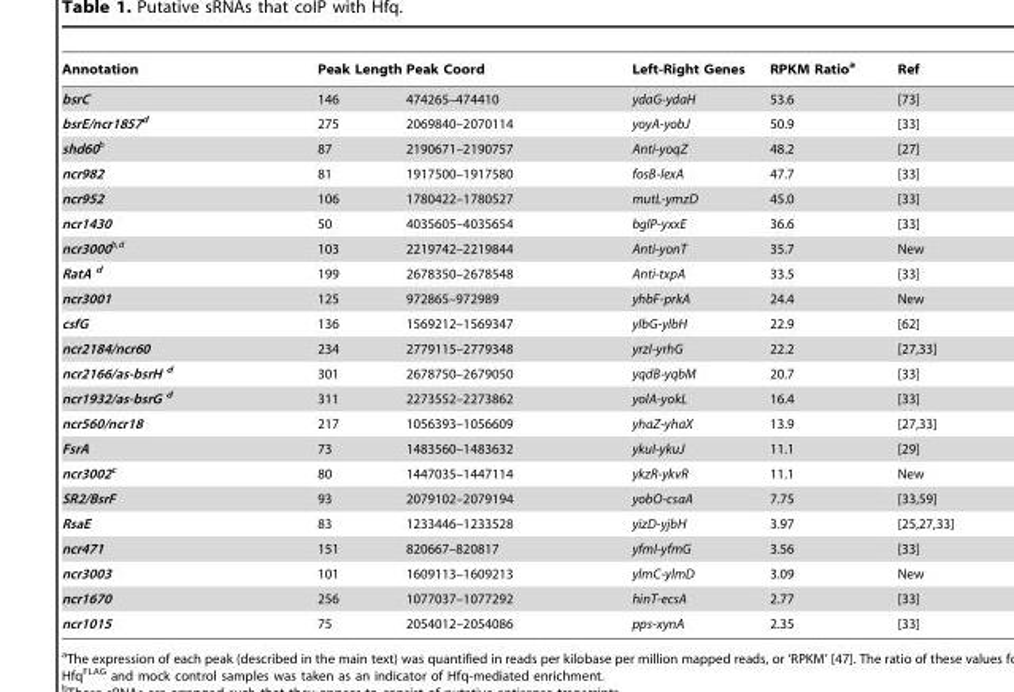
<table><thead><tr><td>Annotation</td><td>Peak Length</td><td>Peak Coord</td><td>Left-Right Genes</td><td>RPKM Ratio<sup>a</sup></td><td>Ref</td></tr></thead><tbody><tr><td>bsrC</td><td>146</td><td>474265–474410</td><td>ydaG-ydaH</td><td>53.6</td><td>[73]</td></tr><tr><td>bsrE/ncr1857d</td><td>275</td><td>2069840–2070114</td><td>yoyA-yobJ</td><td>50.9</td><td>[33]</td></tr><tr><td>shd60b</td><td>87</td><td>2190671–2190757</td><td>Anti-yoqZ</td><td>48.2</td><td>[27]</td></tr><tr><td>ncr982</td><td>81</td><td>1917500–1917580</td><td>fosB-lexA</td><td>47.7</td><td>[33]</td></tr><tr><td>ncr952</td><td>106</td><td>1780422–1780527</td><td>mutL-ymzD</td><td>45.0</td><td>[33]</td></tr><tr><td>ncr1430</td><td>50</td><td>4035605–4035654</td><td>bglP-yxxE</td><td>36.6</td><td>[33]</td></tr><tr><td>ncr3000b,d</td><td>103</td><td>2219742–2219844</td><td>Anti-yonT</td><td>35.7</td><td>New</td></tr><tr><td>RatA d</td><td>199</td><td>2678350–2678548</td><td>Anti-txpA</td><td>33.5</td><td>[33]</td></tr><tr><td>ncr3001</td><td>125</td><td>972865–972989</td><td>yhbF-prkA</td><td>24.4</td><td>New</td></tr><tr><td>csfG</td><td>136</td><td>1569212–1569347</td><td>ylbG-ylbH</td><td>22.9</td><td>[62]</td></tr><tr><td>ncr2184/ncr60</td><td>234</td><td>2779115–2779348</td><td>yrzI-yrhG</td><td>22.2</td><td>[27,33]</td></tr><tr><td>ncr2166/as-bsrH d</td><td>301</td><td>2678750–2679050</td><td>yqdB-yqbM</td><td>20.7</td><td>[33]</td></tr><tr><td>ncr1932/as-bsrG d</td><td>311</td><td>2273552–2273862</td><td>yolA-yokL</td><td>16.4</td><td>[33]</td></tr><tr><td>ncr560/ncr18</td><td>217</td><td>1056393–1056609</td><td>yhaZ-yhaX</td><td>13.9</td><td>[27,33]</td></tr><tr><td>FsrA</td><td>73</td><td>1483560–1483632</td><td>ykuI-ykuJ</td><td>11.1</td><td>[29]</td></tr><tr><td>ncr3002c</td><td>80</td><td>1447035–1447114</td><td>ykzR-ykvR</td><td>11.1</td><td>New</td></tr><tr><td>SR2/BsrF</td><td>93</td><td>2079102–2079194</td><td>yobO-csaA</td><td>7.75</td><td>[33,59]</td></tr><tr><td>RsaE</td><td>83</td><td>1233446–1233528</td><td>yizD-yjbH</td><td>3.97</td><td>[25,27,33]</td></tr><tr><td>ncr471</td><td>151</td><td>820667–820817</td><td>yfmI-yfmG</td><td>3.56</td><td>[33]</td></tr><tr><td>ncr3003</td><td>101</td><td>1609113–1609213</td><td>ylmC-ylmD</td><td>3.09</td><td>New</td></tr><tr><td>ncr1670</td><td>256</td><td>1077037–1077292</td><td>hinT-ecsA</td><td>2.77</td><td>[33]</td></tr><tr><td>ncr1015</td><td>75</td><td>2054012–2054086</td><td>pps-xynA</td><td>2.35</td><td>[33]</td></tr></tbody></table>